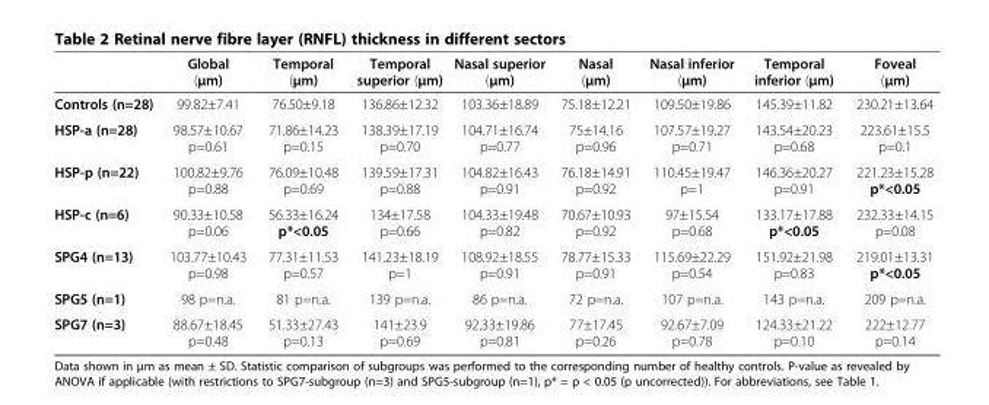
<table><thead><tr><td></td><td>Global (μm)</td><td>Temporal (μm)</td><td>Temporal superior (μm)</td><td>Nasal superior (μm)</td><td>Nasal (μm)</td><td>Nasal inferior (μm)</td><td>Temporal inferior (μm)</td><td>Foveal (μm)</td></tr></thead><tbody><tr><td>Controls (n=28)</td><td>99.82±7.41</td><td>76.50±9.18</td><td>136.86±12.32</td><td>103.36±18.89</td><td>75.18±12.21</td><td>109.50±19.86</td><td>145.39±11.82</td><td>230.21±13.64</td></tr><tr><td>HSP-a (n=28)</td><td>98.57±10.67 p=0.61</td><td>71.86±14.23 p=0.15</td><td>138.39±17.19 p=0.70</td><td>104.71±16.74 p=0.77</td><td>75±14.16 p=0.96</td><td>107.57±19.27 p=0.71</td><td>143.54±20.23 p=0.68</td><td>223.61±15.5 p=0.1</td></tr><tr><td>HSP-p (n=22)</td><td>100.82±9.76 p=0.88</td><td>76.09±10.48 p=0.69</td><td>139.59±17.31 p=0.88</td><td>104.82±16.43 p=0.91</td><td>76.18±14.91 p=0.92</td><td>110.45±19.47 p=1</td><td>146.36±20.27 p=0.91</td><td>221.23±15.28 p*&lt;0.05</td></tr><tr><td>HSP-c (n=6)</td><td>90.33±10.58 p=0.06</td><td>56.33±16.24 p*&lt;0.05</td><td>134±17.58 p=0.66</td><td>104.33±19.48 p=0.82</td><td>70.67±10.93 p=0.92</td><td>97±15.54 p=0.68</td><td>133.17±17.88 p*&lt;0.05</td><td>232.33±14.15 p=0.08</td></tr><tr><td>SPG4 (n=13)</td><td>103.77±10.43 p=0.98</td><td>77.31±11.53 p=0.57</td><td>141.23±18.19 p=1</td><td>108.92±18.55 p=0.91</td><td>78.77±15.33 p=0.91</td><td>115.69±22.29 p=0.54</td><td>151.92±21.98 p=0.83</td><td>219.01±13.31 p*&lt;0.05</td></tr><tr><td>SPG5 (n=1)</td><td>98 p=n.a.</td><td>81 p=n.a.</td><td>139 p=n.a.</td><td>86 p=n.a.</td><td>72 p=n.a.</td><td>107 p=n.a.</td><td>143 p=n.a.</td><td>209 p=n.a.</td></tr><tr><td>SPG7 (n=3)</td><td>88.67±18.45 p=0.48</td><td>51.33±27.43 p=0.13</td><td>141±23.9 p=0.69</td><td>92.33±19.86 p=0.81</td><td>77±17.45 p=0.26</td><td>92.67±7.09 p=0.78</td><td>124.33±21.22 p=0.10</td><td>222±12.77 p=0.14</td></tr></tbody></table>